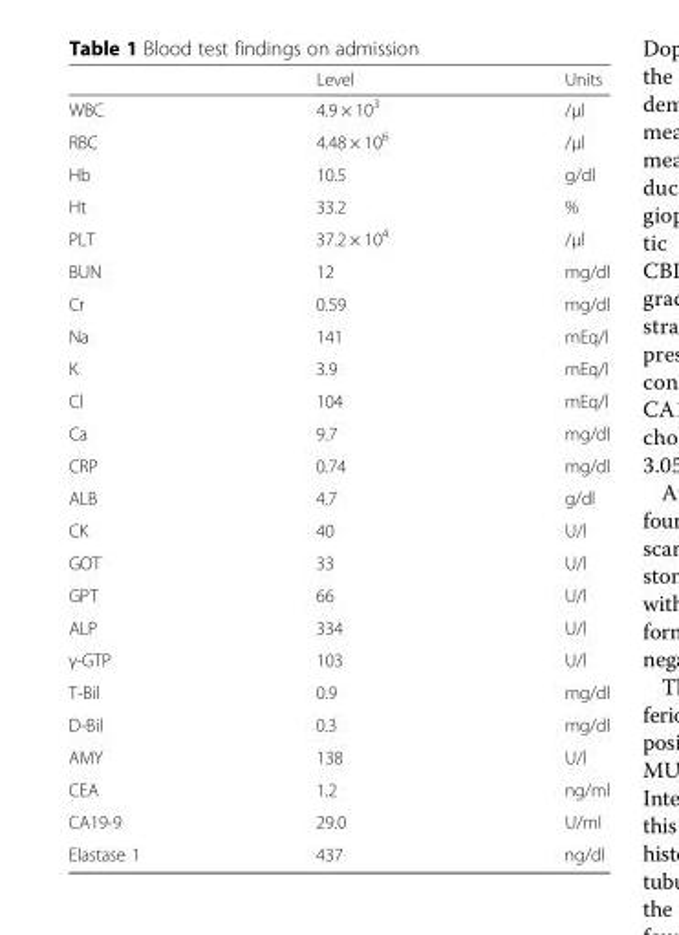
<table><thead><tr><td></td><td>Level</td><td>Units</td></tr></thead><tbody><tr><td>WBC</td><td>4.9 × 10<sup>3</sup></td><td>/μl</td></tr><tr><td>RBC</td><td>4.48 × 10<sup>6</sup></td><td>/μl</td></tr><tr><td>Hb</td><td>10.5</td><td>g/dl</td></tr><tr><td>Ht</td><td>33.2</td><td>%</td></tr><tr><td>PLT</td><td>37.2 × 10<sup>4</sup></td><td>/μl</td></tr><tr><td>BUN</td><td>12</td><td>mg/dl</td></tr><tr><td>Cr</td><td>0.59</td><td>mg/dl</td></tr><tr><td>Na</td><td>141</td><td>mEq/l</td></tr><tr><td>K</td><td>3.9</td><td>mEq/l</td></tr><tr><td>Cl</td><td>104</td><td>mEq/l</td></tr><tr><td>Ca</td><td>9.7</td><td>mg/dl</td></tr><tr><td>CRP</td><td>0.74</td><td>mg/dl</td></tr><tr><td>ALB</td><td>4.7</td><td>g/dl</td></tr><tr><td>CK</td><td>40</td><td>U/l</td></tr><tr><td>GOT</td><td>33</td><td>U/l</td></tr><tr><td>GPT</td><td>66</td><td>U/l</td></tr><tr><td>ALP</td><td>334</td><td>U/l</td></tr><tr><td>γ-GTP</td><td>103</td><td>U/l</td></tr><tr><td>T-Bil</td><td>0.9</td><td>mg/dl</td></tr><tr><td>D-Bil</td><td>0.3</td><td>mg/dl</td></tr><tr><td>AMY</td><td>138</td><td>U/l</td></tr><tr><td>CEA</td><td>1.2</td><td>ng/ml</td></tr><tr><td>CA19-9</td><td>29.0</td><td>U/ml</td></tr><tr><td>Elastase 1</td><td>437</td><td>ng/dl</td></tr></tbody></table>